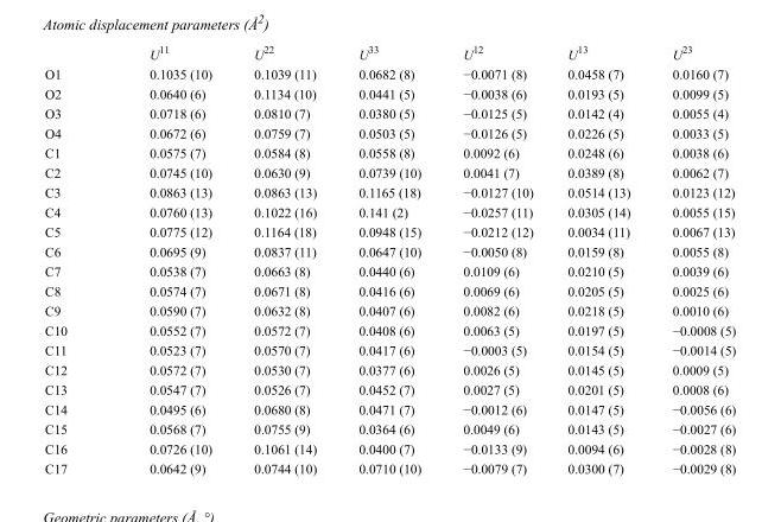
<table><thead><tr><td></td><td>U<sup>11</sup></td><td>U<sup>22</sup></td><td>U<sup>33</sup></td><td>U<sup>12</sup></td><td>U<sup>13</sup></td><td>U<sup>23</sup></td></tr></thead><tbody><tr><td>O1</td><td>0.1035 (10)</td><td>0.1039 (11)</td><td>0.0682 (8)</td><td>−0.0071 (8)</td><td>0.0458 (7)</td><td>0.0160 (7)</td></tr><tr><td>O2</td><td>0.0640 (6)</td><td>0.1134 (10)</td><td>0.0441 (5)</td><td>−0.0038 (6)</td><td>0.0193 (5)</td><td>0.0099 (5)</td></tr><tr><td>O3</td><td>0.0718 (6)</td><td>0.0810 (7)</td><td>0.0380 (5)</td><td>−0.0125 (5)</td><td>0.0142 (4)</td><td>0.0055 (4)</td></tr><tr><td>O4</td><td>0.0672 (6)</td><td>0.0759 (7)</td><td>0.0503 (5)</td><td>−0.0126 (5)</td><td>0.0226 (5)</td><td>0.0033 (5)</td></tr><tr><td>C1</td><td>0.0575 (7)</td><td>0.0584 (8)</td><td>0.0558 (8)</td><td>0.0092 (6)</td><td>0.0248 (6)</td><td>0.0038 (6)</td></tr><tr><td>C2</td><td>0.0745 (10)</td><td>0.0630 (9)</td><td>0.0739 (10)</td><td>0.0041 (7)</td><td>0.0389 (8)</td><td>0.0062 (7)</td></tr><tr><td>C3</td><td>0.0863 (13)</td><td>0.0863 (13)</td><td>0.1165 (18)</td><td>−0.0127 (10)</td><td>0.0514 (13)</td><td>0.0123 (12)</td></tr><tr><td>C4</td><td>0.0760 (13)</td><td>0.1022 (16)</td><td>0.141 (2)</td><td>−0.0257 (11)</td><td>0.0305 (14)</td><td>0.0055 (15)</td></tr><tr><td>C5</td><td>0.0775 (12)</td><td>0.1164 (18)</td><td>0.0948 (15)</td><td>−0.0212 (12)</td><td>0.0034 (11)</td><td>0.0067 (13)</td></tr><tr><td>C6</td><td>0.0695 (9)</td><td>0.0837 (11)</td><td>0.0647 (10)</td><td>−0.0050 (8)</td><td>0.0159 (8)</td><td>0.0055 (8)</td></tr><tr><td>C7</td><td>0.0538 (7)</td><td>0.0663 (8)</td><td>0.0440 (6)</td><td>0.0109 (6)</td><td>0.0210 (5)</td><td>0.0039 (6)</td></tr><tr><td>C8</td><td>0.0574 (7)</td><td>0.0671 (8)</td><td>0.0416 (6)</td><td>0.0069 (6)</td><td>0.0205 (5)</td><td>0.0025 (6)</td></tr><tr><td>C9</td><td>0.0590 (7)</td><td>0.0632 (8)</td><td>0.0407 (6)</td><td>0.0082 (6)</td><td>0.0218 (5)</td><td>0.0010 (6)</td></tr><tr><td>C10</td><td>0.0552 (7)</td><td>0.0572 (7)</td><td>0.0408 (6)</td><td>0.0063 (5)</td><td>0.0197 (5)</td><td>−0.0008 (5)</td></tr><tr><td>C11</td><td>0.0523 (7)</td><td>0.0570 (7)</td><td>0.0417 (6)</td><td>−0.0003 (5)</td><td>0.0154 (5)</td><td>−0.0014 (5)</td></tr><tr><td>C12</td><td>0.0572 (7)</td><td>0.0530 (7)</td><td>0.0377 (6)</td><td>0.0026 (5)</td><td>0.0145 (5)</td><td>0.0009 (5)</td></tr><tr><td>C13</td><td>0.0547 (7)</td><td>0.0526 (7)</td><td>0.0452 (7)</td><td>0.0027 (5)</td><td>0.0201 (5)</td><td>0.0008 (6)</td></tr><tr><td>C14</td><td>0.0495 (6)</td><td>0.0680 (8)</td><td>0.0471 (7)</td><td>−0.0012 (6)</td><td>0.0147 (5)</td><td>−0.0056 (6)</td></tr><tr><td>C15</td><td>0.0568 (7)</td><td>0.0755 (9)</td><td>0.0364 (6)</td><td>0.0049 (6)</td><td>0.0143 (5)</td><td>−0.0027 (6)</td></tr><tr><td>C16</td><td>0.0726 (10)</td><td>0.1061 (14)</td><td>0.0400 (7)</td><td>−0.0133 (9)</td><td>0.0094 (6)</td><td>−0.0028 (8)</td></tr><tr><td>C17</td><td>0.0642 (9)</td><td>0.0744 (10)</td><td>0.0710 (10)</td><td>−0.0079 (7)</td><td>0.0300 (7)</td><td>−0.0029 (8)</td></tr></tbody></table>